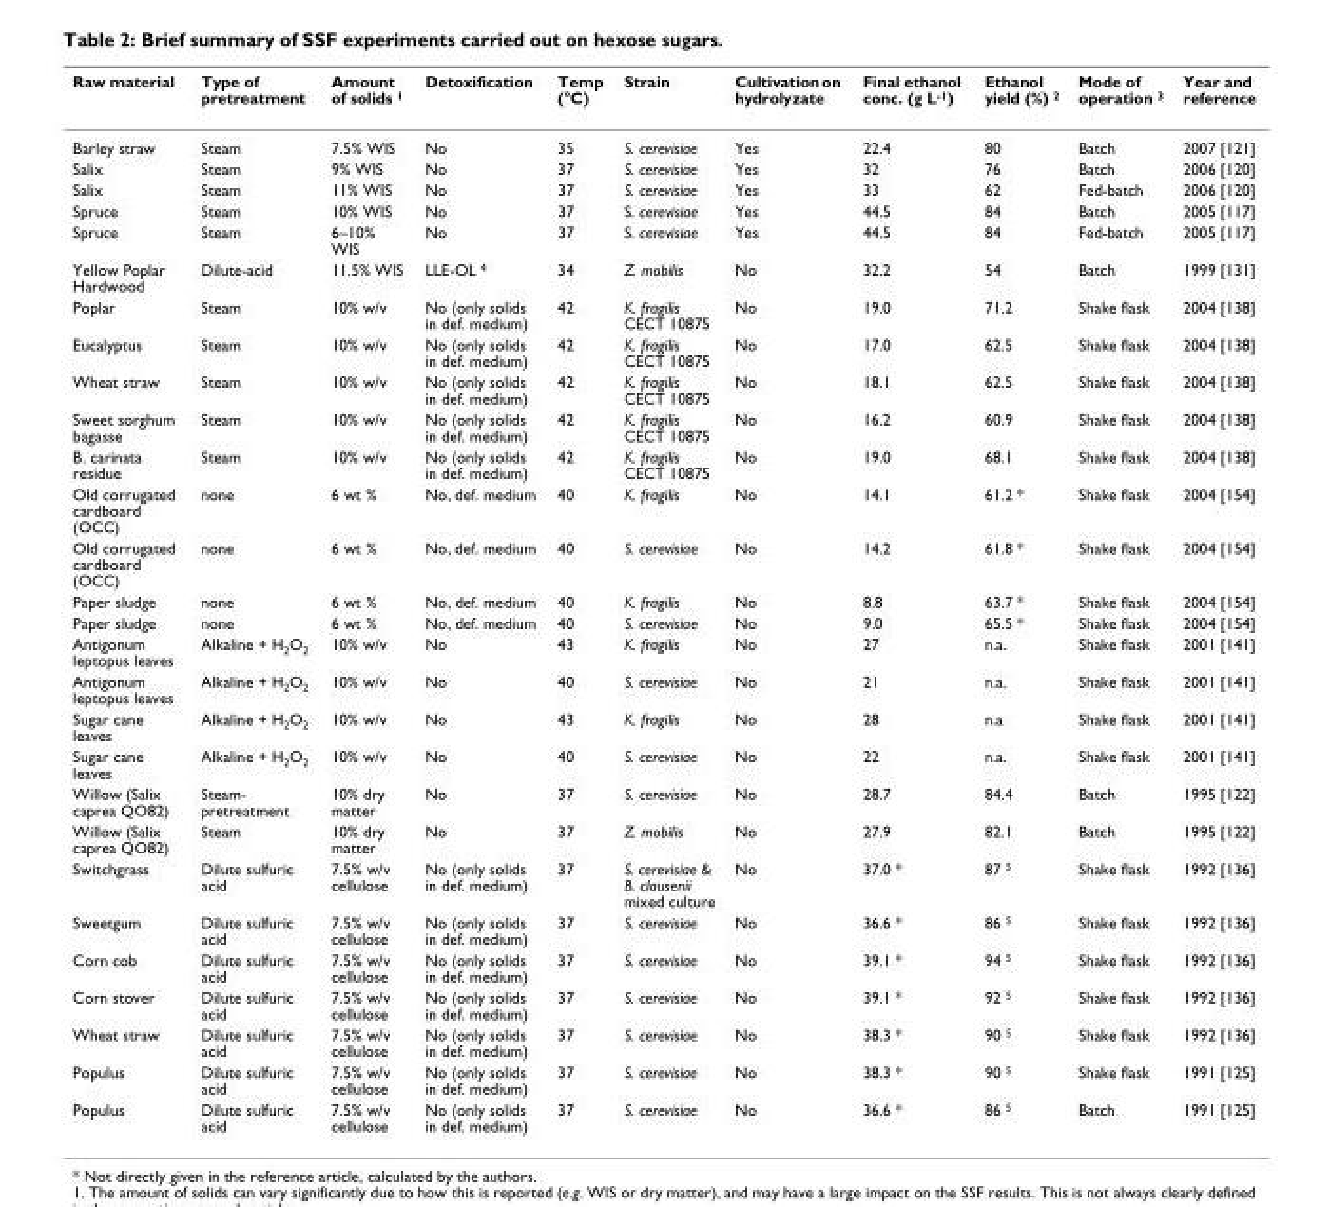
<table><thead><tr><td>Raw material</td><td>Type of pretreatment</td><td>Amount of solids <sup>1</sup></td><td>Detoxification</td><td>Temp (°C)</td><td>Strain</td><td>Cultivation on hydrolyzate</td><td>Final ethanol conc. (g L<sup>-1</sup>)</td><td>Ethanol yield (%) <sup>2</sup></td><td>Mode of operation <sup>3</sup></td><td>Year and reference</td></tr></thead><tbody><tr><td>Barley straw</td><td>Steam</td><td>7.5% WIS</td><td>No</td><td>35</td><td>S. cerevisiae</td><td>Yes</td><td>22.4</td><td>80</td><td>Batch</td><td>2007 [121]</td></tr><tr><td>Salix</td><td>Steam</td><td>9% WIS</td><td>No</td><td>37</td><td>S. cerevisiae</td><td>Yes</td><td>32</td><td>76</td><td>Batch</td><td>2006 [120]</td></tr><tr><td>Salix</td><td>Steam</td><td>11% WIS</td><td>No</td><td>37</td><td>S. cerevisiae</td><td>Yes</td><td>33</td><td>62</td><td>Fed-batch</td><td>2006 [120]</td></tr><tr><td>Spruce</td><td>Steam</td><td>10% WIS</td><td>No</td><td>37</td><td>S. cerevisiae</td><td>Yes</td><td>44.5</td><td>84</td><td>Batch</td><td>2005 [117]</td></tr><tr><td>Spruce</td><td>Steam</td><td>6–10% WIS</td><td>No</td><td>37</td><td>S. cerevisiae</td><td>Yes</td><td>44.5</td><td>84</td><td>Fed-batch</td><td>2005 [117]</td></tr><tr><td>Yellow Poplar Hardwood</td><td>Dilute-acid</td><td>11.5% WIS</td><td>LLE-OL <sup>4</sup></td><td>34</td><td>Z. mobilis</td><td>No</td><td>32.2</td><td>54</td><td>Batch</td><td>1999 [131]</td></tr><tr><td>Poplar</td><td>Steam</td><td>10% w/v</td><td>No (only solids in def. medium)</td><td>42</td><td>K. fragilis CECT 10875</td><td>No</td><td>19.0</td><td>71.2</td><td>Shake flask</td><td>2004 [138]</td></tr><tr><td>Eucalyptus</td><td>Steam</td><td>10% w/v</td><td>No (only solids in def. medium)</td><td>42</td><td>K. fragilis CECT 10875</td><td>No</td><td>17.0</td><td>62.5</td><td>Shake flask</td><td>2004 [138]</td></tr><tr><td>Wheat straw</td><td>Steam</td><td>10% w/v</td><td>No (only solids in def. medium)</td><td>42</td><td>K. fragilis CECT 10875</td><td>No</td><td>18.1</td><td>62.5</td><td>Shake flask</td><td>2004 [138]</td></tr><tr><td>Sweet sorghum bagasse</td><td>Steam</td><td>10% w/v</td><td>No (only solids in def. medium)</td><td>42</td><td>K. fragilis CECT 10875</td><td>No</td><td>16.2</td><td>60.9</td><td>Shake flask</td><td>2004 [138]</td></tr><tr><td>B. carinata residue</td><td>Steam</td><td>10% w/v</td><td>No (only solids in def. medium)</td><td>42</td><td>K. fragilis CECT 10875</td><td>No</td><td>19.0</td><td>68.1</td><td>Shake flask</td><td>2004 [138]</td></tr><tr><td>Old corrugated cardboard (OCC)</td><td>none</td><td>6 wt %</td><td>No, def. medium</td><td>40</td><td>K. fragilis</td><td>No</td><td>14.1</td><td>61.2 *</td><td>Shake flask</td><td>2004 [154]</td></tr><tr><td>Old corrugated cardboard (OCC)</td><td>none</td><td>6 wt %</td><td>No, def. medium</td><td>40</td><td>S. cerevisiae</td><td>No</td><td>14.2</td><td>61.8 *</td><td>Shake flask</td><td>2004 [154]</td></tr><tr><td>Paper sludge</td><td>none</td><td>6 wt %</td><td>No, def. medium</td><td>40</td><td>K. fragilis</td><td>No</td><td>8.8</td><td>63.7 *</td><td>Shake flask</td><td>2004 [154]</td></tr><tr><td>Paper sludge</td><td>none</td><td>6 wt %</td><td>No, def. medium</td><td>40</td><td>S. cerevisiae</td><td>No</td><td>9.0</td><td>65.5 *</td><td>Shake flask</td><td>2004 [154]</td></tr><tr><td>Antigonum leptopus leaves</td><td>Alkaline + H<sub>2</sub>O<sub>2</sub></td><td>10% w/v</td><td>No</td><td>43</td><td>K. fragilis</td><td>No</td><td>27</td><td>n.a.</td><td>Shake flask</td><td>2001 [141]</td></tr><tr><td>Antigonum leptopus leaves</td><td>Alkaline + H<sub>2</sub>O<sub>2</sub></td><td>10% w/v</td><td>No</td><td>40</td><td>S. cerevisiae</td><td>No</td><td>21</td><td>n.a.</td><td>Shake flask</td><td>2001 [141]</td></tr><tr><td>Sugar cane leaves</td><td>Alkaline + H<sub>2</sub>O<sub>2</sub></td><td>10% w/v</td><td>No</td><td>43</td><td>K. fragilis</td><td>No</td><td>28</td><td>n.a</td><td>Shake flask</td><td>2001 [141]</td></tr><tr><td>Sugar cane leaves</td><td>Alkaline + H<sub>2</sub>O<sub>2</sub></td><td>10% w/v</td><td>No</td><td>40</td><td>S. cerevisiae</td><td>No</td><td>22</td><td>n.a.</td><td>Shake flask</td><td>2001 [141]</td></tr><tr><td>Willow (Salix caprea QO82)</td><td>Steam- pretreatment</td><td>10% dry matter</td><td>No</td><td>37</td><td>S. cerevisiae</td><td>No</td><td>28.7</td><td>84.4</td><td>Batch</td><td>1995 [122]</td></tr><tr><td>Willow (Salix caprea QO82)</td><td>Steam</td><td>10% dry matter</td><td>No</td><td>37</td><td>Z. mobilis</td><td>No</td><td>27.9</td><td>82.1</td><td>Batch</td><td>1995 [122]</td></tr><tr><td>Switchgrass</td><td>Dilute sulfuric acid</td><td>7.5% w/v cellulose</td><td>No (only solids in def. medium)</td><td>37</td><td>S. cerevisiae &amp; B. clausenii mixed culture</td><td>No</td><td>37.0 *</td><td>87 <sup>5</sup></td><td>Shake flask</td><td>1992 [136]</td></tr><tr><td>Sweetgum</td><td>Dilute sulfuric acid</td><td>7.5% w/v cellulose</td><td>No (only solids in def. medium)</td><td>37</td><td>S. cerevisiae</td><td>No</td><td>36.6 *</td><td>86 <sup>5</sup></td><td>Shake flask</td><td>1992 [136]</td></tr><tr><td>Corn cob</td><td>Dilute sulfuric acid</td><td>7.5% w/v cellulose</td><td>No (only solids in def. medium)</td><td>37</td><td>S. cerevisiae</td><td>No</td><td>39.1 *</td><td>94 <sup>5</sup></td><td>Shake flask</td><td>1992 [136]</td></tr><tr><td>Corn stover</td><td>Dilute sulfuric acid</td><td>7.5% w/v cellulose</td><td>No (only solids in def. medium)</td><td>37</td><td>S. cerevisiae</td><td>No</td><td>39.1 *</td><td>92 <sup>5</sup></td><td>Shake flask</td><td>1992 [136]</td></tr><tr><td>Wheat straw</td><td>Dilute sulfuric acid</td><td>7.5% w/v cellulose</td><td>No (only solids in def. medium)</td><td>37</td><td>S. cerevisiae</td><td>No</td><td>38.3 *</td><td>90 <sup>5</sup></td><td>Shake flask</td><td>1992 [136]</td></tr><tr><td>Populus</td><td>Dilute sulfuric acid</td><td>7.5% w/v cellulose</td><td>No (only solids in def. medium)</td><td>37</td><td>S. cerevisiae</td><td>No</td><td>38.3 *</td><td>90 <sup>5</sup></td><td>Shake flask</td><td>1991 [125]</td></tr><tr><td>Populus</td><td>Dilute sulfuric acid</td><td>7.5% w/v cellulose</td><td>No (only solids in def. medium)</td><td>37</td><td>S. cerevisiae</td><td>No</td><td>36.6 *</td><td>86 <sup>5</sup></td><td>Batch</td><td>1991 [125]</td></tr></tbody></table>